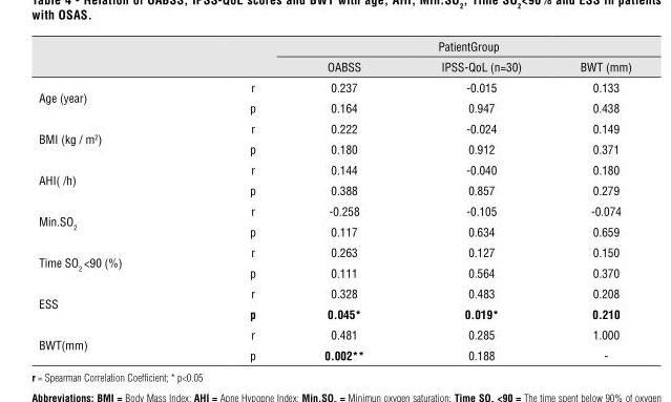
<table><thead><tr><td rowspan="2"></td><td rowspan="2"></td><td colspan="3">PatientGroup</td></tr><tr><td>OABSS</td><td>IPSS-QoL (n=30)</td><td>BWT (mm)</td></tr></thead><tbody><tr><td rowspan="2">Age (year)</td><td>r</td><td>0.237</td><td>-0.015</td><td>0.133</td></tr><tr><td>p</td><td>0.164</td><td>0.947</td><td>0.438</td></tr><tr><td rowspan="2">BMI (kg / m<sup>2</sup>)</td><td>r</td><td>0.222</td><td>-0.024</td><td>0.149</td></tr><tr><td>p</td><td>0.180</td><td>0.912</td><td>0.371</td></tr><tr><td rowspan="2">AHI( /h)</td><td>r</td><td>0.144</td><td>-0.040</td><td>0.180</td></tr><tr><td>p</td><td>0.388</td><td>0.857</td><td>0.279</td></tr><tr><td rowspan="2">Min.SO<sub>2</sub></td><td>r</td><td>-0.258</td><td>-0.105</td><td>-0.074</td></tr><tr><td>p</td><td>0.117</td><td>0.634</td><td>0.659</td></tr><tr><td rowspan="2">Time SO<sub>2</sub> &lt;90 (%)</td><td>r</td><td>0.263</td><td>0.127</td><td>0.150</td></tr><tr><td>p</td><td>0.111</td><td>0.564</td><td>0.370</td></tr><tr><td rowspan="2">ESS</td><td>r</td><td>0.328</td><td>0.483</td><td>0.208</td></tr><tr><td>p</td><td>0.045*</td><td>0.019*</td><td>0.210</td></tr><tr><td rowspan="2">BWT(mm)</td><td>r</td><td>0.481</td><td>0.285</td><td>1.000</td></tr><tr><td>p</td><td>0.002**</td><td>0.188</td><td>-</td></tr></tbody></table>